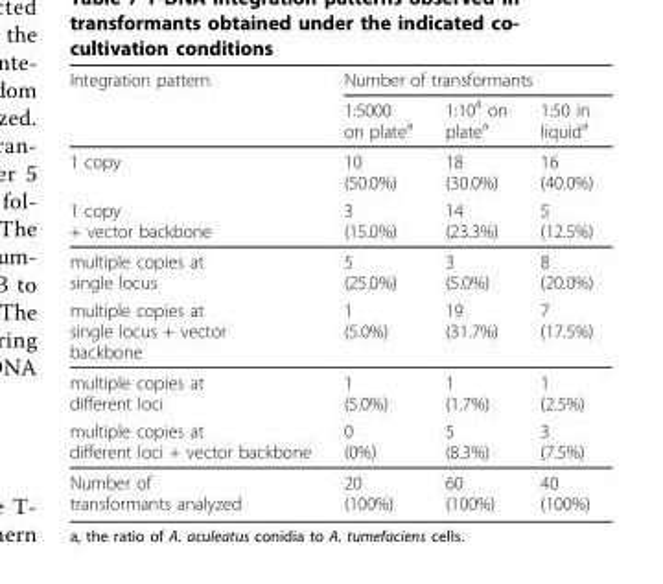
<table><thead><tr><td rowspan="2">Integration pattern</td><td colspan="3">Number of transformants</td></tr><tr><td>1:5000 on plate<sup>a</sup></td><td>1:10<sup>4</sup> on plate<sup>a</sup></td><td>1:50 in liquid<sup>a</sup></td></tr></thead><tbody><tr><td>1 copy</td><td>10 (50.0%)</td><td>18 (30.0%)</td><td>16 (40.0%)</td></tr><tr><td>1 copy + vector backbone</td><td>3 (15.0%)</td><td>14 (23.3%)</td><td>5 (12.5%)</td></tr><tr><td>multiple copies at single locus</td><td>5 (25.0%)</td><td>3 (5.0%)</td><td>8 (20.0%)</td></tr><tr><td>multiple copies at single locus + vector backbone</td><td>1 (5.0%)</td><td>19 (31.7%)</td><td>7 (17.5%)</td></tr><tr><td>multiple copies at different loci</td><td>1 (5.0%)</td><td>1 (1.7%)</td><td>1 (2.5%)</td></tr><tr><td>multiple copies at different loci + vector backbone</td><td>0 (0%)</td><td>5 (8.3%)</td><td>3 (7.5%)</td></tr><tr><td>Number of transformants analyzed</td><td>20 (100%)</td><td>60 (100%)</td><td>40 (100%)</td></tr></tbody></table>